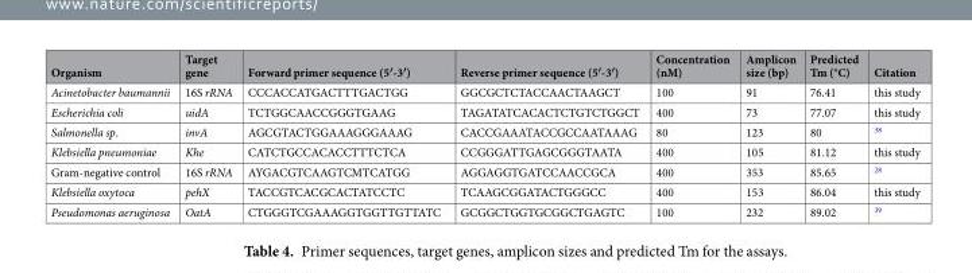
<table><thead><tr><td>Organism</td><td>Target gene</td><td>Forward primer sequence (5′-3′)</td><td>Reverse primer sequence (5′-3′)</td><td>Concentration (nM)</td><td>Amplicon size (bp)</td><td>Predicted Tm (°C)</td><td>Citation</td></tr></thead><tbody><tr><td>Acinetobacter baumannii</td><td>16S rRNA</td><td>CCCACCATGACTTTGACTGG</td><td>GGCGCTCTACCAACTAAGCT</td><td>100</td><td>91</td><td>76.41</td><td>this study</td></tr><tr><td>Escherichia coli</td><td>uidA</td><td>TCTGGCAACCGGGTGAAG</td><td>TAGATATCACACTCTGTCTGGCT</td><td>400</td><td>73</td><td>77.07</td><td>this study</td></tr><tr><td>Salmonella sp.</td><td>invA</td><td>AGCGTACTGGAAAGGGAAAG</td><td>CACCGAAATACCGCCAATAAAG</td><td>80</td><td>123</td><td>80</td><td><sup>38</sup></td></tr><tr><td>Klebsiella pneumoniae</td><td>Khe</td><td>CATCTGCCACACCTTTCTCA</td><td>CCGGGATTGAGCGGGTAATA</td><td>400</td><td>105</td><td>81.12</td><td>this study</td></tr><tr><td>Gram-negative control</td><td>16S rRNA</td><td>AYGACGTCAAGTCMTCATGG</td><td>AGGAGGTGATCCAACCGCA</td><td>400</td><td>353</td><td>85.65</td><td><sup>28</sup></td></tr><tr><td>Klebsiella oxytoca</td><td>pehX</td><td>TACCGTCACGCACTATCCTC</td><td>TCAAGCGGATACTGGGCC</td><td>400</td><td>153</td><td>86.04</td><td>this study</td></tr><tr><td>Pseudomonas aeruginosa</td><td>OatA</td><td>CTGGGTCGAAAGGTGGTTGTTATC</td><td>GCGGCTGGTGCGGCTGAGTC</td><td>100</td><td>232</td><td>89.02</td><td><sup>39</sup></td></tr></tbody></table>